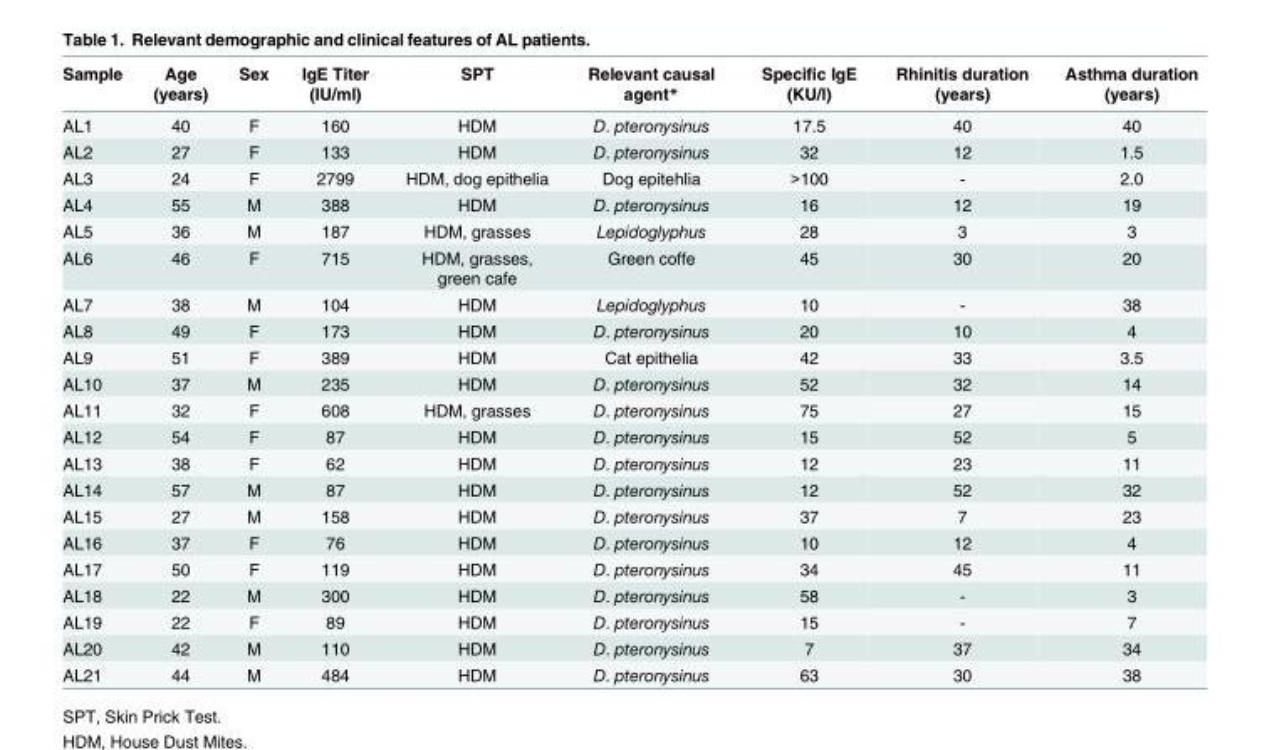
<table><thead><tr><td>Sample</td><td>Age (years)</td><td>Sex</td><td>IgE Titer (IU/ml)</td><td>SPT</td><td>Relevant causal agent*</td><td>Specific IgE (KU/l)</td><td>Rhinitis duration (years)</td><td>Asthma duration (years)</td></tr></thead><tbody><tr><td>AL1</td><td>40</td><td>F</td><td>160</td><td>HDM</td><td>D. pteronysinus</td><td>17.5</td><td>40</td><td>40</td></tr><tr><td>AL2</td><td>27</td><td>F</td><td>133</td><td>HDM</td><td>D. pteronysinus</td><td>32</td><td>12</td><td>1.5</td></tr><tr><td>AL3</td><td>24</td><td>F</td><td>2799</td><td>HDM, dog epithelia</td><td>Dog epitehlia</td><td>&gt;100</td><td>-</td><td>2.0</td></tr><tr><td>AL4</td><td>55</td><td>M</td><td>388</td><td>HDM</td><td>D. pteronysinus</td><td>16</td><td>12</td><td>19</td></tr><tr><td>AL5</td><td>36</td><td>M</td><td>187</td><td>HDM, grasses</td><td>Lepidoglyphus</td><td>28</td><td>3</td><td>3</td></tr><tr><td>AL6</td><td>46</td><td>F</td><td>715</td><td>HDM, grasses, green cafe</td><td>Green coffe</td><td>45</td><td>30</td><td>20</td></tr><tr><td>AL7</td><td>38</td><td>M</td><td>104</td><td>HDM</td><td>Lepidoglyphus</td><td>10</td><td>-</td><td>38</td></tr><tr><td>AL8</td><td>49</td><td>F</td><td>173</td><td>HDM</td><td>D. pteronysinus</td><td>20</td><td>10</td><td>4</td></tr><tr><td>AL9</td><td>51</td><td>F</td><td>389</td><td>HDM</td><td>Cat epithelia</td><td>42</td><td>33</td><td>3.5</td></tr><tr><td>AL10</td><td>37</td><td>M</td><td>235</td><td>HDM</td><td>D. pteronysinus</td><td>52</td><td>32</td><td>14</td></tr><tr><td>AL11</td><td>32</td><td>F</td><td>608</td><td>HDM, grasses</td><td>D. pteronysinus</td><td>75</td><td>27</td><td>15</td></tr><tr><td>AL12</td><td>54</td><td>F</td><td>87</td><td>HDM</td><td>D. pteronysinus</td><td>15</td><td>52</td><td>5</td></tr><tr><td>AL13</td><td>38</td><td>F</td><td>62</td><td>HDM</td><td>D. pteronysinus</td><td>12</td><td>23</td><td>11</td></tr><tr><td>AL14</td><td>57</td><td>M</td><td>87</td><td>HDM</td><td>D. pteronysinus</td><td>12</td><td>52</td><td>32</td></tr><tr><td>AL15</td><td>27</td><td>M</td><td>158</td><td>HDM</td><td>D. pteronysinus</td><td>37</td><td>7</td><td>23</td></tr><tr><td>AL16</td><td>37</td><td>F</td><td>76</td><td>HDM</td><td>D. pteronysinus</td><td>10</td><td>12</td><td>4</td></tr><tr><td>AL17</td><td>50</td><td>F</td><td>119</td><td>HDM</td><td>D. pteronysinus</td><td>34</td><td>45</td><td>11</td></tr><tr><td>AL18</td><td>22</td><td>M</td><td>300</td><td>HDM</td><td>D. pteronysinus</td><td>58</td><td>-</td><td>3</td></tr><tr><td>AL19</td><td>22</td><td>F</td><td>89</td><td>HDM</td><td>D. pteronysinus</td><td>15</td><td>-</td><td>7</td></tr><tr><td>AL20</td><td>42</td><td>M</td><td>110</td><td>HDM</td><td>D. pteronysinus</td><td>7</td><td>37</td><td>34</td></tr><tr><td>AL21</td><td>44</td><td>M</td><td>484</td><td>HDM</td><td>D. pteronysinus</td><td>63</td><td>30</td><td>38</td></tr></tbody></table>